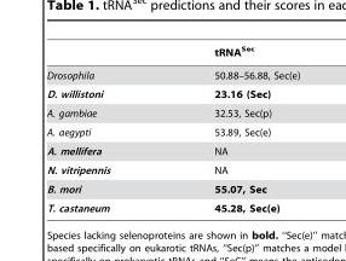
<table><thead><tr><td></td><td>tRNA<sup>Sec</sup></td></tr></thead><tbody><tr><td>Drosophila</td><td>50.88–56.88, Sec(e)</td></tr><tr><td>D. willistoni</td><td>23.16 (Sec)</td></tr><tr><td>A. gambiae</td><td>32.53, Sec(p)</td></tr><tr><td>A. aegypti</td><td>53.89, Sec(e)</td></tr><tr><td>A. mellifera</td><td>NA</td></tr><tr><td>N. vitripennis</td><td>NA</td></tr><tr><td>B. mori</td><td>55.07, Sec</td></tr><tr><td>T. castaneum</td><td>45.28, Sec(e)</td></tr></tbody></table>